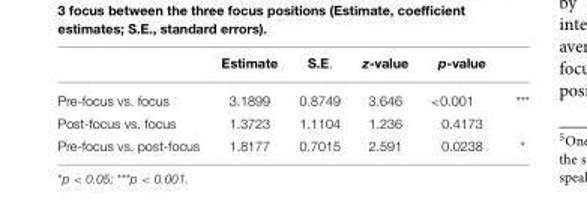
<table><thead><tr><td></td><td>Estimate</td><td>S.E.</td><td>z-value</td><td>p-value</td><td></td></tr></thead><tbody><tr><td>Pre-focus vs. focus</td><td>3.1899</td><td>0.8749</td><td>3.646</td><td>&lt;0.001</td><td>***</td></tr><tr><td>Post-focus vs. focus</td><td>1.3723</td><td>1.1104</td><td>1.236</td><td>0.4173</td><td></td></tr><tr><td>Pre-focus vs. post-focus</td><td>1.8177</td><td>0.7015</td><td>2.591</td><td>0.0238</td><td>*</td></tr></tbody></table>